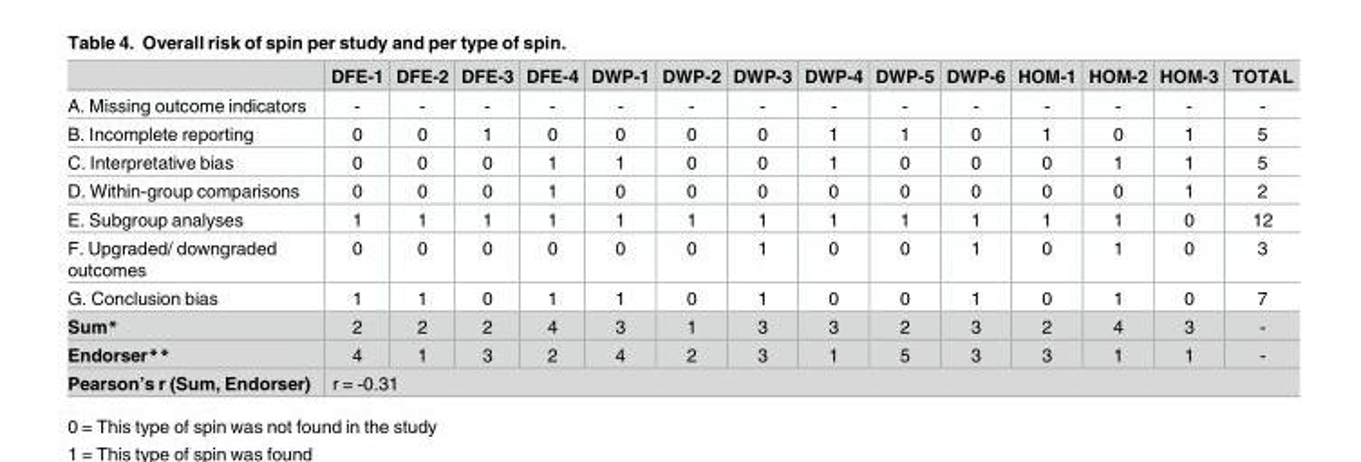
<table><thead><tr><td></td><td>DFE-1</td><td>DFE-2</td><td>DFE-3</td><td>DFE-4</td><td>DWP-1</td><td>DWP-2</td><td>DWP-3</td><td>DWP-4</td><td>DWP-5</td><td>DWP-6</td><td>HOM-1</td><td>HOM-2</td><td>HOM-3</td><td>TOTAL</td></tr></thead><tbody><tr><td>A. Missing outcome indicators</td><td>-</td><td>-</td><td>-</td><td>-</td><td>-</td><td>-</td><td>-</td><td>-</td><td>-</td><td>-</td><td>-</td><td>-</td><td>-</td><td>-</td></tr><tr><td>B. Incomplete reporting</td><td>0</td><td>0</td><td>1</td><td>0</td><td>0</td><td>0</td><td>0</td><td>1</td><td>1</td><td>0</td><td>1</td><td>0</td><td>1</td><td>5</td></tr><tr><td>C. Interpretative bias</td><td>0</td><td>0</td><td>0</td><td>1</td><td>1</td><td>0</td><td>0</td><td>1</td><td>0</td><td>0</td><td>0</td><td>1</td><td>1</td><td>5</td></tr><tr><td>D. Within-group comparisons</td><td>0</td><td>0</td><td>0</td><td>1</td><td>0</td><td>0</td><td>0</td><td>0</td><td>0</td><td>0</td><td>0</td><td>0</td><td>1</td><td>2</td></tr><tr><td>E. Subgroup analyses</td><td>1</td><td>1</td><td>1</td><td>1</td><td>1</td><td>1</td><td>1</td><td>1</td><td>1</td><td>1</td><td>1</td><td>1</td><td>0</td><td>12</td></tr><tr><td>F. Upgraded/ downgraded outcomes</td><td>0</td><td>0</td><td>0</td><td>0</td><td>0</td><td>0</td><td>1</td><td>0</td><td>0</td><td>1</td><td>0</td><td>1</td><td>0</td><td>3</td></tr><tr><td>G. Conclusion bias</td><td>1</td><td>1</td><td>0</td><td>1</td><td>1</td><td>0</td><td>1</td><td>0</td><td>0</td><td>1</td><td>0</td><td>1</td><td>0</td><td>7</td></tr><tr><td>Sum*</td><td>2</td><td>2</td><td>2</td><td>4</td><td>3</td><td>1</td><td>3</td><td>3</td><td>2</td><td>3</td><td>2</td><td>4</td><td>3</td><td>-</td></tr><tr><td>Endorser**</td><td>4</td><td>1</td><td>3</td><td>2</td><td>4</td><td>2</td><td>3</td><td>1</td><td>5</td><td>3</td><td>3</td><td>1</td><td>1</td><td>-</td></tr><tr><td>Pearson’s r (Sum, Endorser)</td><td colspan="14">r = -0.31</td></tr></tbody></table>